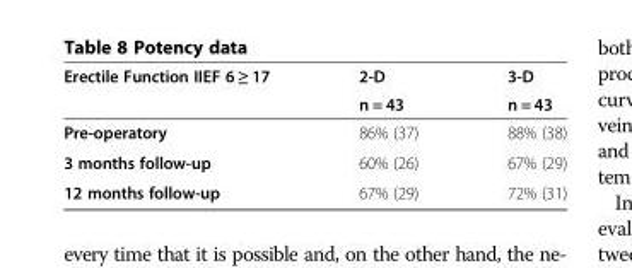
<table><thead><tr><td rowspan="2">Erectile Function IIEF 6 ≥ 17</td><td rowspan="2">2-D n = 43</td><td rowspan="2">3-D n = 43</td></tr><tr></tr></thead><tbody><tr><td>Pre-operatory</td><td>86% (37)</td><td>88% (38)</td></tr><tr><td>3 months follow-up</td><td>60% (26)</td><td>67% (29)</td></tr><tr><td>12 months follow-up</td><td>67% (29)</td><td>72% (31)</td></tr></tbody></table>